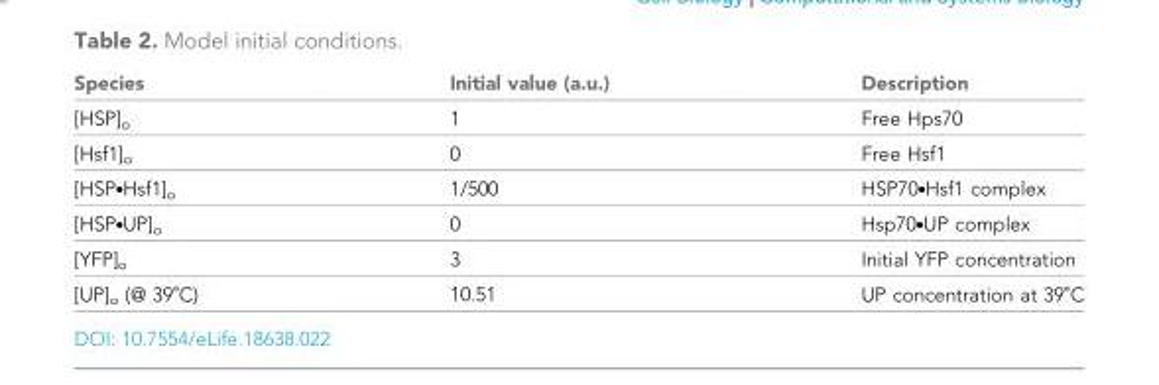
<table><thead><tr><td>Species</td><td>Initial value (a.u.)</td><td>Description</td></tr></thead><tbody><tr><td>[HSP]<sub>o</sub></td><td>1</td><td>Free Hps70</td></tr><tr><td>[Hsf1]<sub>o</sub></td><td>0</td><td>Free Hsf1</td></tr><tr><td>[HSP.Hsf1]o</td><td>1/500</td><td>HSP70.Hsf1 complex</td></tr><tr><td>[HSP.UP]o</td><td>0</td><td>Hsp70.UP complex</td></tr><tr><td>[YFP]<sub>o</sub></td><td>3</td><td>Initial YFP concentration</td></tr><tr><td>[UP]o (@ 39˚C)</td><td>10.51</td><td>UP concentration at 39˚C</td></tr></tbody></table>